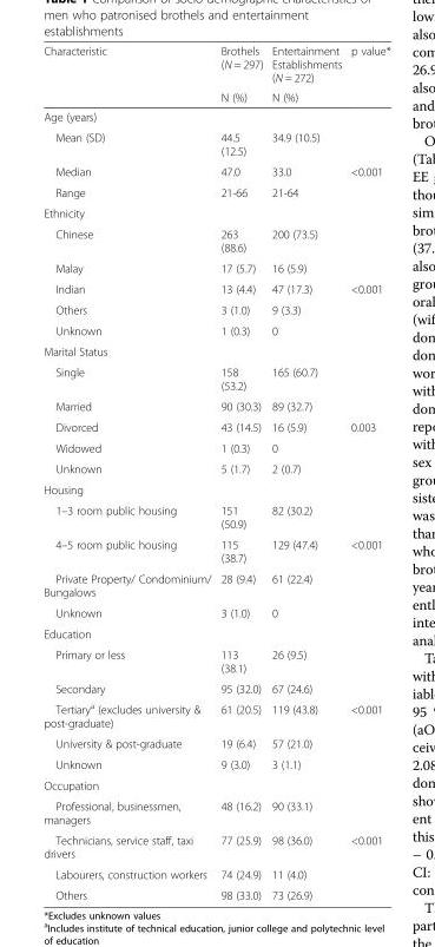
<table><thead><tr><td rowspan="2">Characteristic</td><td rowspan="2">Brothels (N = 297) N (%)</td><td rowspan="2">Entertainment Establishments (N = 272) N (%)</td><td rowspan="2">p value*</td></tr><tr></tr></thead><tbody><tr><td colspan="4">Age (years)</td></tr><tr><td>Mean (SD)</td><td>44.5 (12.5)</td><td>34.9 (10.5)</td><td></td></tr><tr><td>Median</td><td>47.0</td><td>33.0</td><td>&lt;0.001</td></tr><tr><td>Range</td><td>21-66</td><td>21-64</td><td></td></tr><tr><td colspan="4">Ethnicity</td></tr><tr><td>Chinese</td><td>263 (88.6)</td><td>200 (73.5)</td><td></td></tr><tr><td>Malay</td><td>17 (5.7)</td><td>16 (5.9)</td><td></td></tr><tr><td>Indian</td><td>13 (4.4)</td><td>47 (17.3)</td><td>&lt;0.001</td></tr><tr><td>Others</td><td>3 (1.0)</td><td>9 (3.3)</td><td></td></tr><tr><td>Unknown</td><td>1 (0.3)</td><td>0</td><td></td></tr><tr><td colspan="4">Marital Status</td></tr><tr><td>Single</td><td>158 (53.2)</td><td>165 (60.7)</td><td></td></tr><tr><td>Married</td><td>90 (30.3)</td><td>89 (32.7)</td><td></td></tr><tr><td>Divorced</td><td>43 (14.5)</td><td>16 (5.9)</td><td>0.003</td></tr><tr><td>Widowed</td><td>1 (0.3)</td><td>0</td><td></td></tr><tr><td>Unknown</td><td>5 (1.7)</td><td>2 (0.7)</td><td></td></tr><tr><td colspan="4">Housing</td></tr><tr><td>1–3 room public housing</td><td>151 (50.9)</td><td>82 (30.2)</td><td></td></tr><tr><td>4–5 room public housing</td><td>115 (38.7)</td><td>129 (47.4)</td><td>&lt;0.001</td></tr><tr><td>Private Property/ Condominium/ Bungalows</td><td>28 (9.4)</td><td>61 (22.4)</td><td></td></tr><tr><td>Unknown</td><td>3 (1.0)</td><td>0</td><td></td></tr><tr><td colspan="4">Education</td></tr><tr><td>Primary or less</td><td>113 (38.1)</td><td>26 (9.5)</td><td></td></tr><tr><td>Secondary</td><td>95 (32.0)</td><td>67 (24.6)</td><td></td></tr><tr><td>Tertiary<sup>a</sup> (excludes university &amp; post-graduate)</td><td>61 (20.5)</td><td>119 (43.8)</td><td>&lt;0.001</td></tr><tr><td>University &amp; post-graduate</td><td>19 (6.4)</td><td>57 (21.0)</td><td></td></tr><tr><td>Unknown</td><td>9 (3.0)</td><td>3 (1.1)</td><td></td></tr><tr><td colspan="4">Occupation</td></tr><tr><td>Professional, businessmen, managers</td><td>48 (16.2)</td><td>90 (33.1)</td><td></td></tr><tr><td>Technicians, service staff, taxi drivers</td><td>77 (25.9)</td><td>98 (36.0)</td><td>&lt;0.001</td></tr><tr><td>Labourers, construction workers</td><td>74 (24.9)</td><td>11 (4.0)</td><td></td></tr><tr><td>Others</td><td>98 (33.0)</td><td>73 (26.9)</td><td></td></tr></tbody></table>